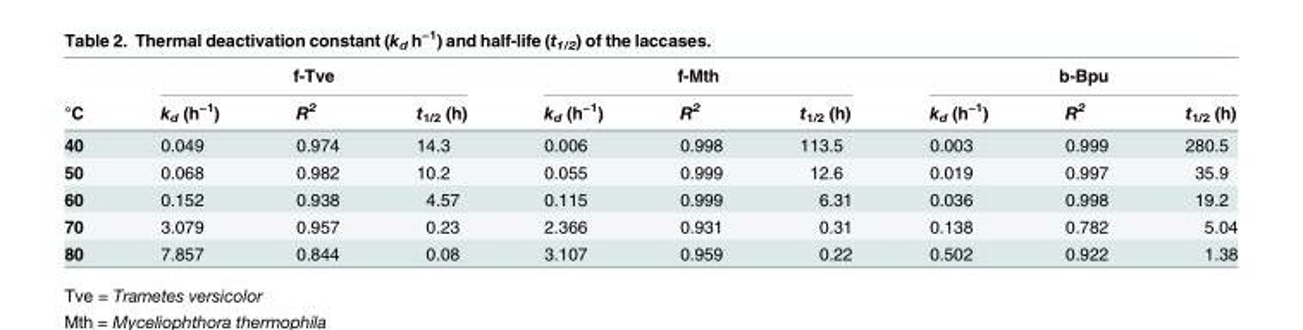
<table><thead><tr><td rowspan="2">°C</td><td colspan="3">f-Tve</td><td colspan="3">f-Mth</td><td colspan="3">b-Bpu</td></tr><tr><td>k<sub>d</sub> (h<sup>−1</sup>)</td><td>R<sup>2</sup></td><td>t<sub>1/2</sub> (h)</td><td>k<sub>d</sub> (h<sup>−1</sup>)</td><td>R<sup>2</sup></td><td>t<sub>1/2</sub> (h)</td><td>k<sub>d</sub> (h<sup>−1</sup>)</td><td>R<sup>2</sup></td><td>t<sub>1/2</sub> (h)</td></tr></thead><tbody><tr><td>40</td><td>0.049</td><td>0.974</td><td>14.3</td><td>0.006</td><td>0.998</td><td>113.5</td><td>0.003</td><td>0.999</td><td>280.5</td></tr><tr><td>50</td><td>0.068</td><td>0.982</td><td>10.2</td><td>0.055</td><td>0.999</td><td>12.6</td><td>0.019</td><td>0.997</td><td>35.9</td></tr><tr><td>60</td><td>0.152</td><td>0.938</td><td>4.57</td><td>0.115</td><td>0.999</td><td>6.31</td><td>0.036</td><td>0.998</td><td>19.2</td></tr><tr><td>70</td><td>3.079</td><td>0.957</td><td>0.23</td><td>2.366</td><td>0.931</td><td>0.31</td><td>0.138</td><td>0.782</td><td>5.04</td></tr><tr><td>80</td><td>7.857</td><td>0.844</td><td>0.08</td><td>3.107</td><td>0.959</td><td>0.22</td><td>0.502</td><td>0.922</td><td>1.38</td></tr></tbody></table>